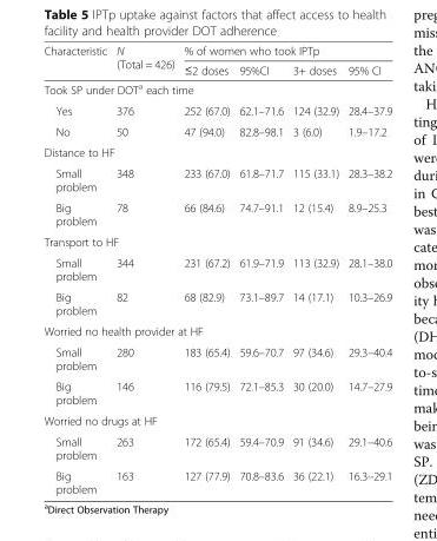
<table><thead><tr><td rowspan="2">Characteristic</td><td rowspan="2">N (Total = 426)</td><td colspan="4">% of women who took IPTp</td></tr><tr><td>≤2 doses</td><td>95%CI</td><td>3+ doses</td><td>95% CI</td></tr></thead><tbody><tr><td colspan="6">Took SP under DOT<sup>a</sup> each time</td></tr><tr><td>Yes</td><td>376</td><td>252 (67.0)</td><td>62.1–71.6</td><td>124 (32.9)</td><td>28.4–37.9</td></tr><tr><td>No</td><td>50</td><td>47 (94.0)</td><td>82.8–98.1</td><td>3 (6.0)</td><td>1.9–17.2</td></tr><tr><td colspan="6">Distance to HF</td></tr><tr><td>Small problem</td><td>348</td><td>233 (67.0)</td><td>61.8–71.7</td><td>115 (33.1)</td><td>28.3–38.2</td></tr><tr><td>Big problem</td><td>78</td><td>66 (84.6)</td><td>74.7–91.1</td><td>12 (15.4)</td><td>8.9–25.3</td></tr><tr><td colspan="6">Transport to HF</td></tr><tr><td>Small problem</td><td>344</td><td>231 (67.2)</td><td>61.9–71.9</td><td>113 (32.9)</td><td>28.1–38.0</td></tr><tr><td>Big problem</td><td>82</td><td>68 (82.9)</td><td>73.1–89.7</td><td>14 (17.1)</td><td>10.3–26.9</td></tr><tr><td colspan="6">Worried no health provider at HF</td></tr><tr><td>Small problem</td><td>280</td><td>183 (65.4)</td><td>59.6–70.7</td><td>97 (34.6)</td><td>29.3–40.4</td></tr><tr><td>Big problem</td><td>146</td><td>116 (79.5)</td><td>72.1–85.3</td><td>30 (20.0)</td><td>14.7–27.9</td></tr><tr><td colspan="6">Worried no drugs at HF</td></tr><tr><td>Small problem</td><td>263</td><td>172 (65.4)</td><td>59.4–70.9</td><td>91 (34.6)</td><td>29.1–40.6</td></tr><tr><td>Big problem</td><td>163</td><td>127 (77.9)</td><td>70.8–83.6</td><td>36 (22.1)</td><td>16.3–29.1</td></tr></tbody></table>